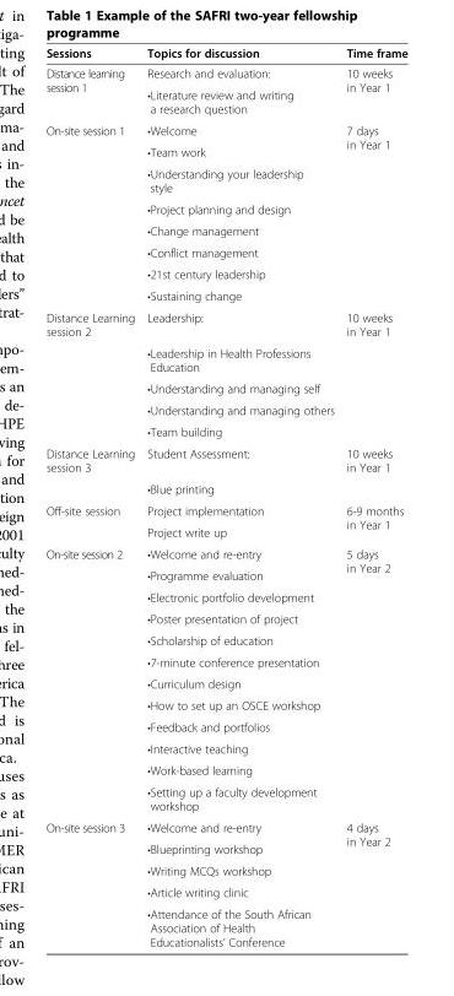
<table><thead><tr><td>Sessions</td><td>Topics for discussion</td><td>Time frame</td></tr></thead><tbody><tr><td rowspan="2">Distance learning session 1</td><td>Research and evaluation:</td><td rowspan="2">10 weeks in Year 1</td></tr><tr><td>•Literature review and writing a research question</td></tr><tr><td rowspan="8">On-site session 1</td><td>•Welcome</td><td rowspan="8">7 days in Year 1</td></tr><tr><td>•Team work</td></tr><tr><td>•Understanding your leadership style</td></tr><tr><td>•Project planning and design</td></tr><tr><td>•Change management</td></tr><tr><td>•Conflict management</td></tr><tr><td>•21st century leadership</td></tr><tr><td>•Sustaining change</td></tr><tr><td rowspan="5">Distance Learning session 2</td><td>Leadership:</td><td rowspan="5">10 weeks in Year 1</td></tr><tr><td>•Leadership in Health Professions Education</td></tr><tr><td>•Understanding and managing self</td></tr><tr><td>•Understanding and managing others</td></tr><tr><td>•Team building</td></tr><tr><td rowspan="2">Distance Learning session 3</td><td>Student Assessment:</td><td rowspan="2">10 weeks in Year 1</td></tr><tr><td>•Blue printing</td></tr><tr><td rowspan="2">Off-site session</td><td>Project implementation</td><td rowspan="2">6-9 months in Year 1</td></tr><tr><td>Project write up</td></tr><tr><td rowspan="12">On-site session 2</td><td>•Welcome and re-entry</td><td rowspan="12">5 days in Year 2</td></tr><tr><td>•Programme evaluation</td></tr><tr><td>•Electronic portfolio development</td></tr><tr><td>•Poster presentation of project</td></tr><tr><td>•Scholarship of education</td></tr><tr><td>•7-minute conference presentation</td></tr><tr><td>•Curriculum design</td></tr><tr><td>•How to set up an OSCE workshop</td></tr><tr><td>•Feedback and portfolios</td></tr><tr><td>•Interactive teaching</td></tr><tr><td>•Work-based learning</td></tr><tr><td>•Setting up a faculty development workshop</td></tr><tr><td rowspan="5">On-site session 3</td><td>•Welcome and re-entry</td><td rowspan="5">4 days in Year 2</td></tr><tr><td>•Blueprinting workshop</td></tr><tr><td>•Writing MCQs workshop</td></tr><tr><td>•Article writing clinic</td></tr><tr><td>•Attendance of the South African Association of Health Educationalists’ Conference</td></tr></tbody></table>